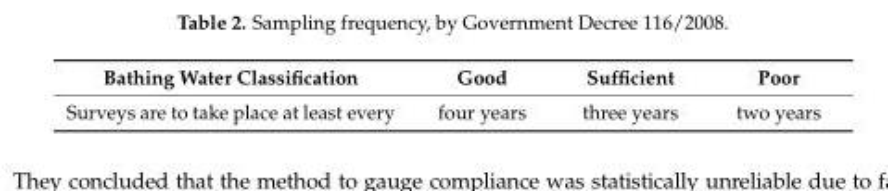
<table><thead><tr><td>Bathing Water Classification</td><td>Good</td><td>Sufficient</td><td>Poor</td></tr></thead><tbody><tr><td>Surveys are to take place at least every</td><td>four years</td><td>three years</td><td>two years</td></tr></tbody></table>